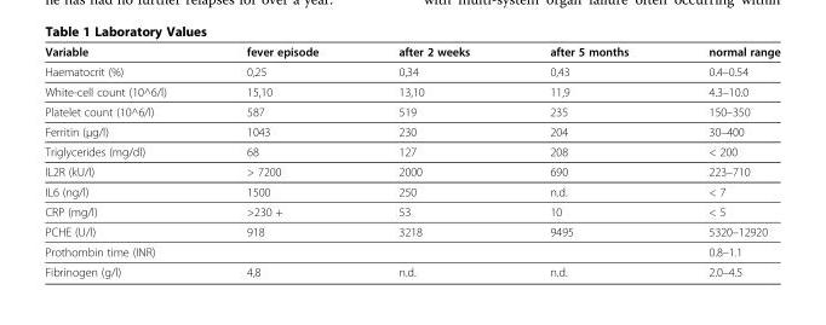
<table><thead><tr><td>Variable</td><td>fever episode</td><td>after 2 weeks</td><td>after 5 months</td><td>normal range</td></tr></thead><tbody><tr><td>Haematocrit (%)</td><td>0,25</td><td>0,34</td><td>0,43</td><td>0.4–0.54</td></tr><tr><td>White-cell count (10^6/l)</td><td>15,10</td><td>13,10</td><td>11,9</td><td>4.3–10.0</td></tr><tr><td>Platelet count (10^6/l)</td><td>587</td><td>519</td><td>235</td><td>150–350</td></tr><tr><td>Ferritin (μg/l)</td><td>1043</td><td>230</td><td>204</td><td>30–400</td></tr><tr><td>Triglycerides (mg/dl)</td><td>68</td><td>127</td><td>208</td><td>&lt; 200</td></tr><tr><td>IL2R (kU/l)</td><td>&gt; 7200</td><td>2000</td><td>690</td><td>223–710</td></tr><tr><td>IL6 (ng/l)</td><td>1500</td><td>250</td><td>n.d.</td><td>&lt; 7</td></tr><tr><td>CRP (mg/l)</td><td>&gt;230 +</td><td>53</td><td>10</td><td>&lt; 5</td></tr><tr><td>PCHE (U/l)</td><td>918</td><td>3218</td><td>9495</td><td>5320–12920</td></tr><tr><td>Prothombin time (INR)</td><td></td><td></td><td></td><td>0.8–1.1</td></tr><tr><td>Fibrinogen (g/l)</td><td>4,8</td><td>n.d.</td><td>n.d.</td><td>2.0–4.5</td></tr></tbody></table>